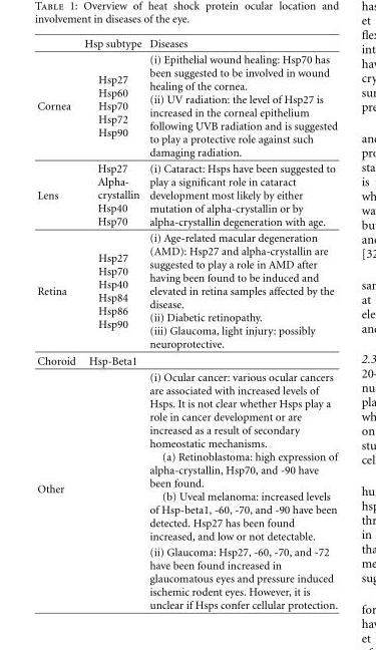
<table><thead><tr><td></td><td>Hsp subtype</td><td>Diseases</td></tr></thead><tbody><tr><td>Cornea</td><td>Hsp27 Hsp60 Hsp70 Hsp72 Hsp90</td><td>(i) Epithelial wound healing: Hsp70 has been suggested to be involved in wound healing of the cornea. (ii) UV radiation: the level of Hsp27 is increased in the corneal epithelium following UVB radiation and is suggested to play a protective role against such damaging radiation.</td></tr><tr><td>Lens</td><td>Hsp27 Alpha- crystallin Hsp40 Hsp70</td><td>(i) Cataract: Hsps have been suggested to play a significant role in cataract development most likely by either mutation of alpha-crystallin or by alpha-crystallin degeneration with age.</td></tr><tr><td>Retina</td><td>Hsp27 Hsp70 Hsp40 Hsp84 Hsp86 Hsp90</td><td>(i) Age-related macular degeneration (AMD): Hsp27 and alpha-crystallin are suggested to play a role in AMD after having been found to be induced and elevated in retina samples affected by the disease. (ii) Diabetic retinopathy. (iii) Glaucoma, light injury: possibly neuroprotective.</td></tr><tr><td>Choroid</td><td>Hsp-Beta1</td><td></td></tr><tr><td rowspan="2">Other</td><td></td><td>(i) Ocular cancer: various ocular cancers are associated with increased levels of Hsps. It is not clear whether Hsps play a role in cancer development or are increased as a result of secondary homeostatic mechanisms. (a) Retinoblastoma: high expression of alpha-crystallin, Hsp70, and -90 have been found. (b) Uveal melanoma: increased levels of Hsp-beta1, -60, -70, and -90 have been detected. Hsp27 has been found increased, and low or not detectable.</td></tr><tr><td></td><td>(ii) Glaucoma: Hsp27, -60, -70, and -72 have been found increased in glaucomatous eyes and pressure induced ischemic rodent eyes. However, it is unclear if Hsps confer cellular protection.</td></tr></tbody></table>